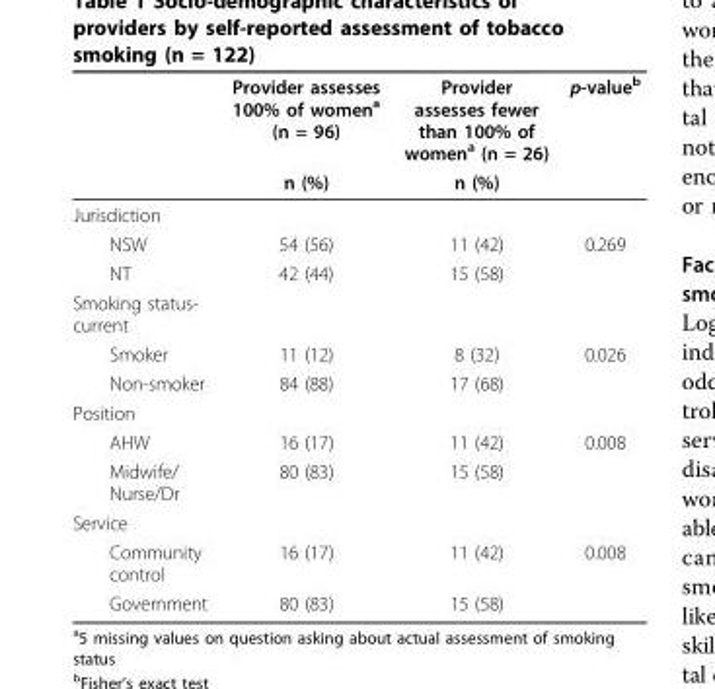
<table><thead><tr><td rowspan="2"></td><td rowspan="2">Provider assesses 100% of women<sup>a</sup> (n = 96) n (%)</td><td rowspan="2">Provider assesses fewer than 100% of women<sup>a</sup> (n = 26) n (%)</td><td rowspan="2">p-value<sup>b</sup></td></tr><tr></tr></thead><tbody><tr><td colspan="4">Jurisdiction</td></tr><tr><td>NSW</td><td>54 (56)</td><td>11 (42)</td><td>0.269</td></tr><tr><td>NT</td><td>42 (44)</td><td>15 (58)</td><td></td></tr><tr><td colspan="4">Smoking status- current</td></tr><tr><td>Smoker</td><td>11 (12)</td><td>8 (32)</td><td>0.026</td></tr><tr><td>Non-smoker</td><td>84 (88)</td><td>17 (68)</td><td></td></tr><tr><td colspan="4">Position</td></tr><tr><td>AHW</td><td>16 (17)</td><td>11 (42)</td><td>0.008</td></tr><tr><td>Midwife/ Nurse/Dr</td><td>80 (83)</td><td>15 (58)</td><td></td></tr><tr><td colspan="4">Service</td></tr><tr><td>Community control</td><td>16 (17)</td><td>11 (42)</td><td>0.008</td></tr><tr><td>Government</td><td>80 (83)</td><td>15 (58)</td><td></td></tr></tbody></table>